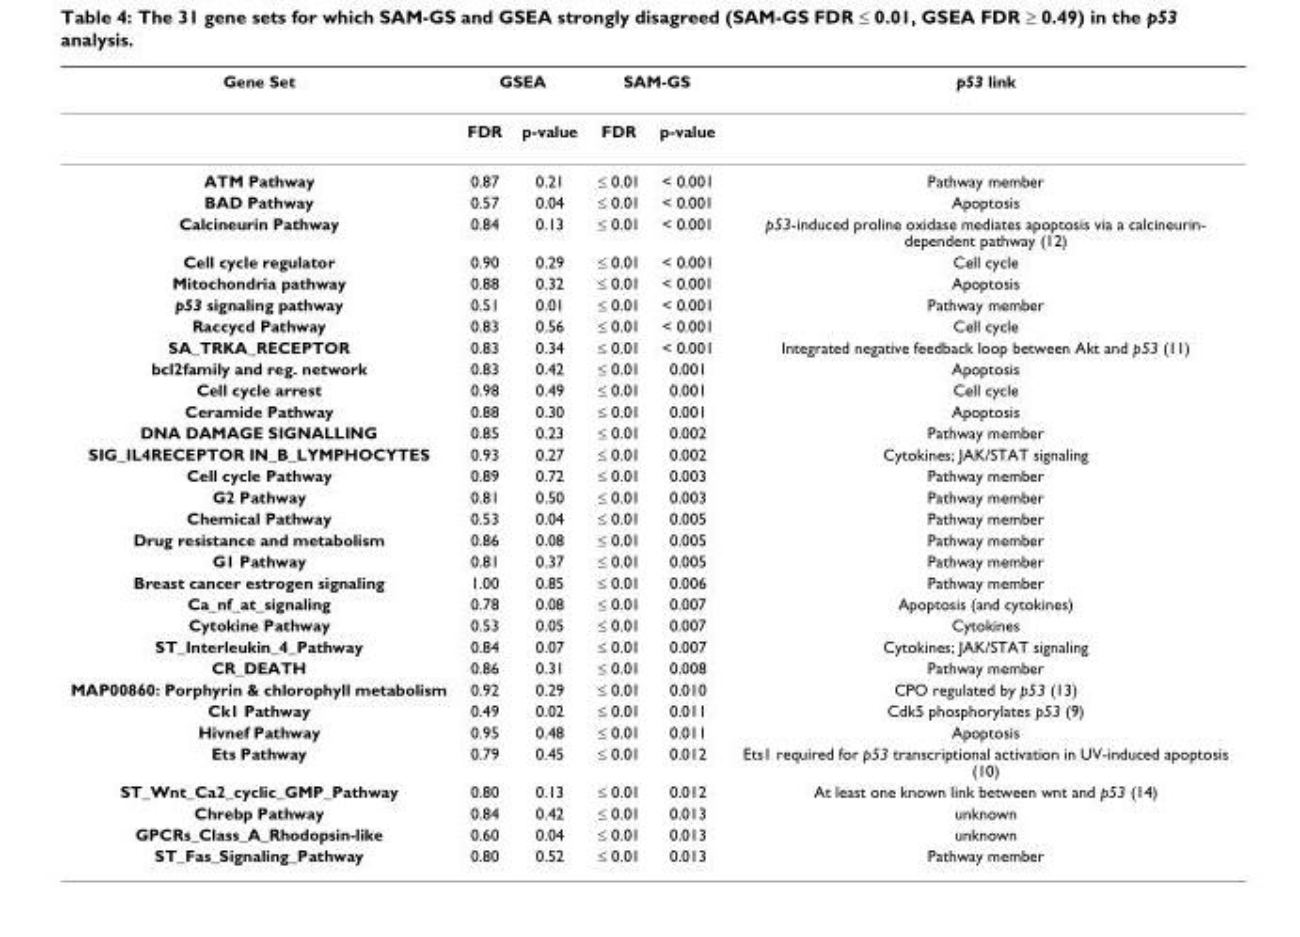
<table><thead><tr><td rowspan="2">Gene Set</td><td colspan="2">GSEA</td><td colspan="2">SAM-GS</td><td rowspan="2">p53 link</td></tr><tr><td>FDR</td><td>p-value</td><td>FDR</td><td>p-value</td></tr></thead><tbody><tr><td>ATM Pathway</td><td>0.87</td><td>0.21</td><td>≤ 0.01</td><td>&lt; 0.001</td><td>Pathway member</td></tr><tr><td>BAD Pathway</td><td>0.57</td><td>0.04</td><td>≤ 0.01</td><td>&lt; 0.001</td><td>Apoptosis</td></tr><tr><td>Calcineurin Pathway</td><td>0.84</td><td>0.13</td><td>≤ 0.01</td><td>&lt; 0.001</td><td>p53-induced proline oxidase mediates apoptosis via a calcineurin- dependent pathway (12)</td></tr><tr><td>Cell cycle regulator</td><td>0.90</td><td>0.29</td><td>≤ 0.01</td><td>&lt; 0.001</td><td>Cell cycle</td></tr><tr><td>Mitochondria pathway</td><td>0.88</td><td>0.32</td><td>≤ 0.01</td><td>&lt; 0.001</td><td>Apoptosis</td></tr><tr><td>p53 signaling pathway</td><td>0.51</td><td>0.01</td><td>≤ 0.01</td><td>&lt; 0.001</td><td>Pathway member</td></tr><tr><td>Raccycd Pathway</td><td>0.83</td><td>0.56</td><td>≤ 0.01</td><td>&lt; 0.001</td><td>Cell cycle</td></tr><tr><td>SA_TRKA_RECEPTOR</td><td>0.83</td><td>0.34</td><td>≤ 0.01</td><td>&lt; 0.001</td><td>Integrated negative feedback loop between Akt and p53 (11)</td></tr><tr><td>bcl2family and reg. network</td><td>0.83</td><td>0.42</td><td>≤ 0.01</td><td>0.001</td><td>Apoptosis</td></tr><tr><td>Cell cycle arrest</td><td>0.98</td><td>0.49</td><td>≤ 0.01</td><td>0.001</td><td>Cell cycle</td></tr><tr><td>Ceramide Pathway</td><td>0.88</td><td>0.30</td><td>≤ 0.01</td><td>0.001</td><td>Apoptosis</td></tr><tr><td>DNA DAMAGE SIGNALLING</td><td>0.85</td><td>0.23</td><td>≤ 0.01</td><td>0.002</td><td>Pathway member</td></tr><tr><td>SIG_IL4RECEPTOR IN_B_LYMPHOCYTES</td><td>0.93</td><td>0.27</td><td>≤ 0.01</td><td>0.002</td><td>Cytokines; JAK/STAT signaling</td></tr><tr><td>Cell cycle Pathway</td><td>0.89</td><td>0.72</td><td>≤ 0.01</td><td>0.003</td><td>Pathway member</td></tr><tr><td>G2 Pathway</td><td>0.81</td><td>0.50</td><td>≤ 0.01</td><td>0.003</td><td>Pathway member</td></tr><tr><td>Chemical Pathway</td><td>0.53</td><td>0.04</td><td>≤ 0.01</td><td>0.005</td><td>Pathway member</td></tr><tr><td>Drug resistance and metabolism</td><td>0.86</td><td>0.08</td><td>≤ 0.01</td><td>0.005</td><td>Pathway member</td></tr><tr><td>G1 Pathway</td><td>0.81</td><td>0.37</td><td>≤ 0.01</td><td>0.005</td><td>Pathway member</td></tr><tr><td>Breast cancer estrogen signaling</td><td>1.00</td><td>0.85</td><td>≤ 0.01</td><td>0.006</td><td>Pathway member</td></tr><tr><td>Ca_nf_at_signaling</td><td>0.78</td><td>0.08</td><td>≤ 0.01</td><td>0.007</td><td>Apoptosis (and cytokines)</td></tr><tr><td>Cytokine Pathway</td><td>0.53</td><td>0.05</td><td>≤ 0.01</td><td>0.007</td><td>Cytokines</td></tr><tr><td>ST_Interleukin_4_Pathway</td><td>0.84</td><td>0.07</td><td>≤ 0.01</td><td>0.007</td><td>Cytokines; JAK/STAT signaling</td></tr><tr><td>CR_DEATH</td><td>0.86</td><td>0.31</td><td>≤ 0.01</td><td>0.008</td><td>Pathway member</td></tr><tr><td>MAP00860: Porphyrin &amp; chlorophyll metabolism</td><td>0.92</td><td>0.29</td><td>≤ 0.01</td><td>0.010</td><td>CPO regulated by p53 (13)</td></tr><tr><td>Ck1 Pathway</td><td>0.49</td><td>0.02</td><td>≤ 0.01</td><td>0.011</td><td>Cdk5 phosphorylates p53 (9)</td></tr><tr><td>Hivnef Pathway</td><td>0.95</td><td>0.48</td><td>≤ 0.01</td><td>0.011</td><td>Apoptosis</td></tr><tr><td>Ets Pathway</td><td>0.79</td><td>0.45</td><td>≤ 0.01</td><td>0.012</td><td>Ets1 required for p53 transcriptional activation in UV-induced apoptosis (10)</td></tr><tr><td>ST_Wnt_Ca2_cyclic_GMP_Pathway</td><td>0.80</td><td>0.13</td><td>≤ 0.01</td><td>0.012</td><td>At least one known link between wnt and p53 (14)</td></tr><tr><td>Chrebp Pathway</td><td>0.84</td><td>0.42</td><td>≤ 0.01</td><td>0.013</td><td>unknown</td></tr><tr><td>GPCRs_Class_A_Rhodopsin-like</td><td>0.60</td><td>0.04</td><td>≤ 0.01</td><td>0.013</td><td>unknown</td></tr><tr><td>ST_Fas_Signaling_Pathway</td><td>0.80</td><td>0.52</td><td>≤ 0.01</td><td>0.013</td><td>Pathway member</td></tr></tbody></table>